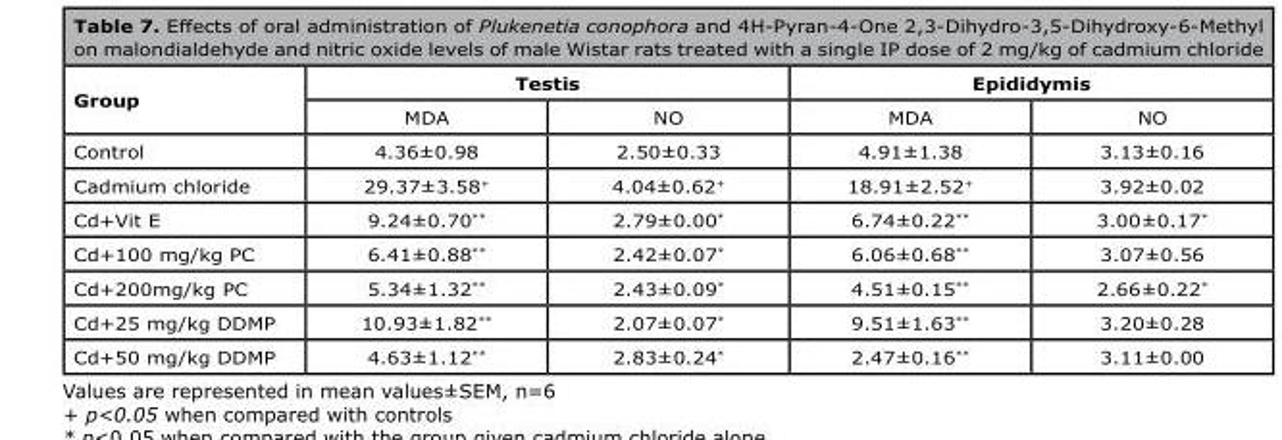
<table><thead><tr><td rowspan="2">Group</td><td colspan="2">Testis</td><td colspan="2">Epididymis</td></tr><tr><td>MDA</td><td>NO</td><td>MDA</td><td>NO</td></tr></thead><tbody><tr><td>Control</td><td>4.36±0.98</td><td>2.50±0.33</td><td>4.91±1.38</td><td>3.13±0.16</td></tr><tr><td>Cadmium chloride</td><td>29.37±3.58<sup>+</sup></td><td>4.04±0.62<sup>+</sup></td><td>18.91±2.52<sup>+</sup></td><td>3.92±0.02</td></tr><tr><td>Cd+Vit E</td><td>9.24±0.70**</td><td>2.79±0.00*</td><td>6.74±0.22**</td><td>3.00±0.17*</td></tr><tr><td>Cd+100 mg/kg PC</td><td>6.41±0.88**</td><td>2.42±0.07*</td><td>6.06±0.68**</td><td>3.07±0.56</td></tr><tr><td>Cd+200mg/kg PC</td><td>5.34±1.32**</td><td>2.43±0.09*</td><td>4.51±0.15**</td><td>2.66±0.22*</td></tr><tr><td>Cd+25 mg/kg DDMP</td><td>10.93±1.82**</td><td>2.07±0.07*</td><td>9.51±1.63**</td><td>3.20±0.28</td></tr><tr><td>Cd+50 mg/kg DDMP</td><td>4.63±1.12**</td><td>2.83±0.24*</td><td>2.47±0.16**</td><td>3.11±0.00</td></tr></tbody></table>